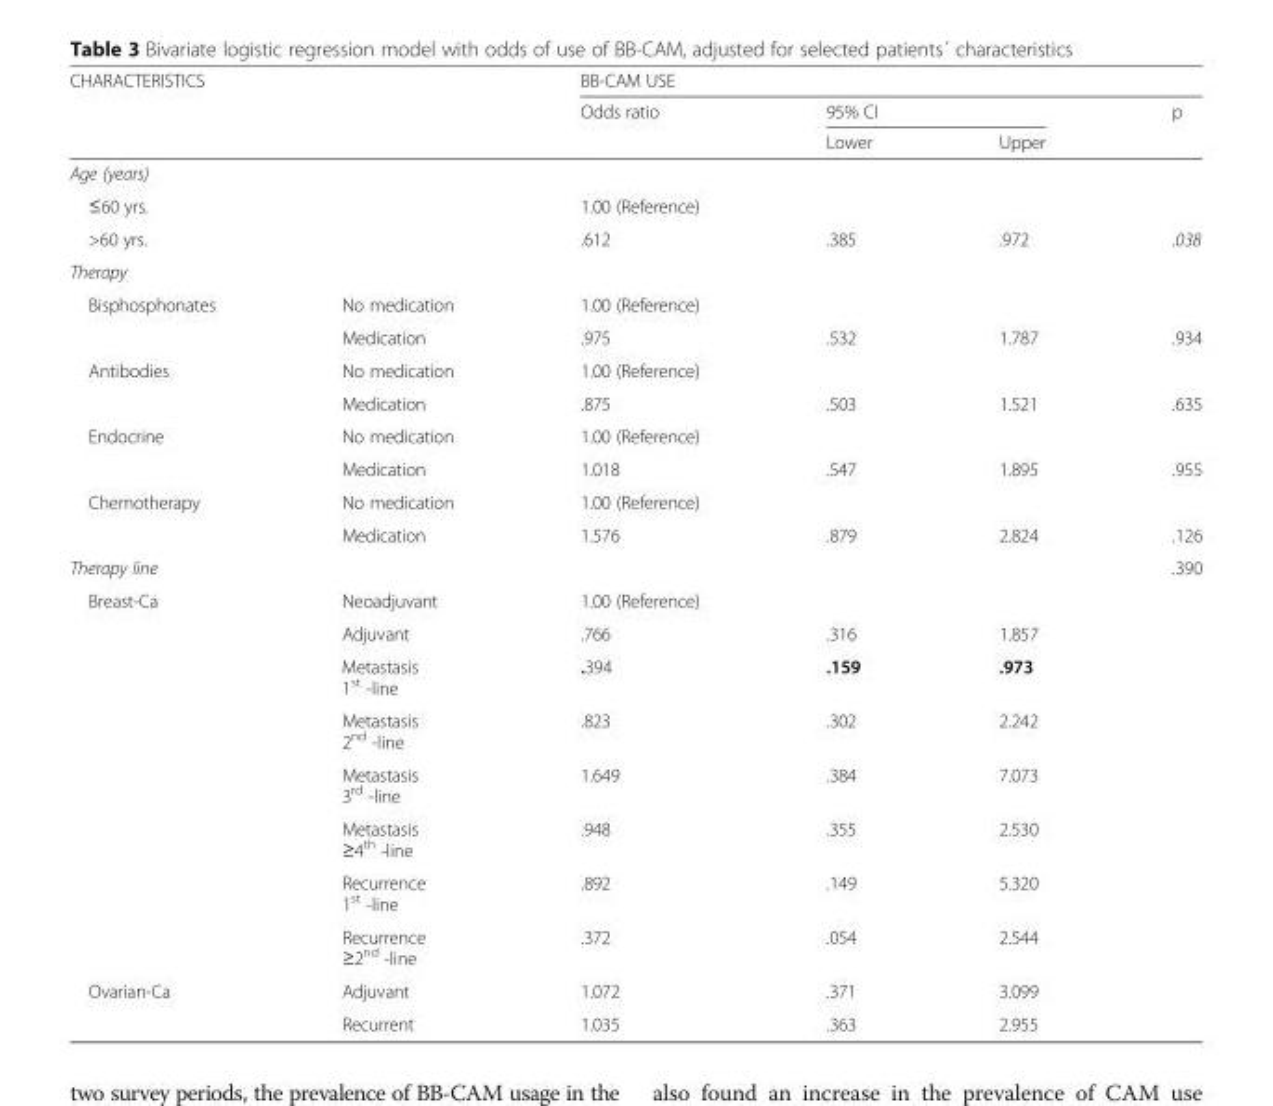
<table><thead><tr><td rowspan="3" colspan="2">CHARACTERISTICS</td><td colspan="4">BB-CAM USE</td></tr><tr><td rowspan="2">Odds ratio</td><td colspan="2">95% CI</td><td rowspan="2">p</td></tr><tr><td>Lower</td><td>Upper</td></tr><tr><td colspan="6">Age (years)</td></tr><tr><td>≤60 yrs.</td><td></td><td>1.00 (Reference)</td><td></td><td></td><td></td></tr></thead><tbody><tr><td>&gt;60 yrs.</td><td></td><td>.612</td><td>.385</td><td>.972</td><td>.038</td></tr><tr><td colspan="6">Therapy</td></tr><tr><td rowspan="2">Bisphosphonates</td><td>No medication</td><td>1.00 (Reference)</td><td></td><td></td><td></td></tr><tr><td>Medication</td><td>.975</td><td>.532</td><td>1.787</td><td>.934</td></tr><tr><td rowspan="2">Antibodies</td><td>No medication</td><td>1.00 (Reference)</td><td></td><td></td><td></td></tr><tr><td>Medication</td><td>.875</td><td>.503</td><td>1.521</td><td>.635</td></tr><tr><td rowspan="2">Endocrine</td><td>No medication</td><td>1.00 (Reference)</td><td></td><td></td><td></td></tr><tr><td>Medication</td><td>1.018</td><td>.547</td><td>1.895</td><td>.955</td></tr><tr><td rowspan="2">Chemotherapy</td><td>No medication</td><td>1.00 (Reference)</td><td></td><td></td><td></td></tr><tr><td>Medication</td><td>1.576</td><td>.879</td><td>2.824</td><td>.126</td></tr><tr><td colspan="5">Therapy line</td><td>.390</td></tr><tr><td rowspan="8">Breast-Ca</td><td>Neoadjuvant</td><td>1.00 (Reference)</td><td></td><td></td><td></td></tr><tr><td>Adjuvant</td><td>.766</td><td>.316</td><td>1.857</td><td></td></tr><tr><td>Metastasis 1<sup>st</sup> -line</td><td>.394</td><td>.159</td><td>.973</td><td></td></tr><tr><td>Metastasis 2<sup>nd</sup> -line</td><td>.823</td><td>.302</td><td>2.242</td><td></td></tr><tr><td>Metastasis 3<sup>rd</sup> -line</td><td>1.649</td><td>.384</td><td>7.073</td><td></td></tr><tr><td>Metastasis ≥4<sup>th</sup> -line</td><td>.948</td><td>.355</td><td>2.530</td><td></td></tr><tr><td>Recurrence 1<sup>st</sup> -line</td><td>.892</td><td>.149</td><td>5.320</td><td></td></tr><tr><td>Recurrence ≥2<sup>nd</sup> -line</td><td>.372</td><td>.054</td><td>2.544</td><td></td></tr><tr><td rowspan="2">Ovarian-Ca</td><td>Adjuvant</td><td>1.072</td><td>.371</td><td>3.099</td><td></td></tr><tr><td>Recurrent</td><td>1.035</td><td>.363</td><td>2.955</td><td></td></tr></tbody></table>